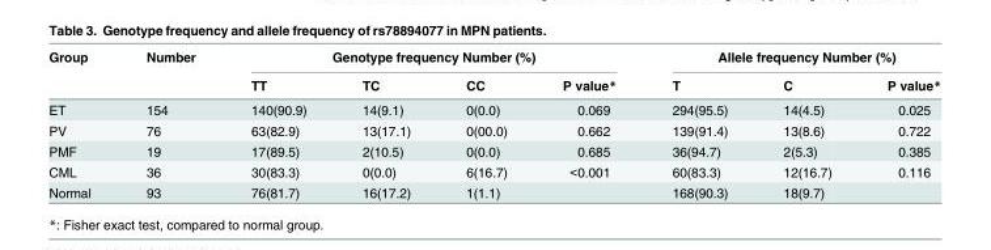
<table><thead><tr><td rowspan="2">Group</td><td rowspan="2">Number</td><td colspan="4">Genotype frequency Number (%)</td><td colspan="3">Allele frequency Number (%)</td></tr><tr><td>TT</td><td>TC</td><td>CC</td><td>P value*</td><td>T</td><td>C</td><td>P value*</td></tr></thead><tbody><tr><td>ET</td><td>154</td><td>140(90.9)</td><td>14(9.1)</td><td>0(0.0)</td><td>0.069</td><td>294(95.5)</td><td>14(4.5)</td><td>0.025</td></tr><tr><td>PV</td><td>76</td><td>63(82.9)</td><td>13(17.1)</td><td>0(00.0)</td><td>0.662</td><td>139(91.4)</td><td>13(8.6)</td><td>0.722</td></tr><tr><td>PMF</td><td>19</td><td>17(89.5)</td><td>2(10.5)</td><td>0(0.0)</td><td>0.685</td><td>36(94.7)</td><td>2(5.3)</td><td>0.385</td></tr><tr><td>CML</td><td>36</td><td>30(83.3)</td><td>0(0.0)</td><td>6(16.7)</td><td>&lt;0.001</td><td>60(83.3)</td><td>12(16.7)</td><td>0.116</td></tr><tr><td>Normal</td><td>93</td><td>76(81.7)</td><td>16(17.2)</td><td>1(1.1)</td><td></td><td>168(90.3)</td><td>18(9.7)</td><td></td></tr></tbody></table>